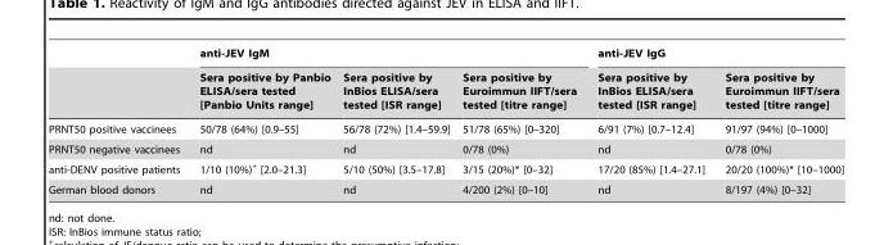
<table><thead><tr><td rowspan="2"></td><td colspan="3">anti-JEV IgM</td><td colspan="2">anti-JEV IgG</td></tr><tr><td>Sera positive by Panbio ELISA/sera tested [Panbio Units range]</td><td>Sera positive by InBios ELISA/sera tested [ISR range]</td><td>Sera positive by Euroimmun IIFT/sera tested [titre range]</td><td>Sera positive by InBios ELISA/sera tested [ISR range]</td><td>Sera positive by Euroimmun IIFT/sera tested [titre range]</td></tr></thead><tbody><tr><td>PRNT50 positive vaccinees</td><td>50/78 (64%) [0.9–55]</td><td>56/78 (72%) [1.4–59.9]</td><td>51/78 (65%) [0–320]</td><td>6/91 (7%) [0.7–12.4]</td><td>91/97 (94%) [0–1000]</td></tr><tr><td>PRNT50 negative vaccinees</td><td>nd</td><td>nd</td><td>0/78 (0%)</td><td>nd</td><td>0/78 (0%)</td></tr><tr><td>anti-DENV positive patients</td><td>1/10 (10%)+ [2.0–21.3]</td><td>5/10 (50%) [3.5–17.8]</td><td>3/15 (20%)* [0–32]</td><td>17/20 (85%) [1.4–27.1]</td><td>20/20 (100%)* [10–1000]</td></tr><tr><td>German blood donors</td><td>nd</td><td>nd</td><td>4/200 (2%) [0–10]</td><td>nd</td><td>8/197 (4%) [0–32]</td></tr></tbody></table>